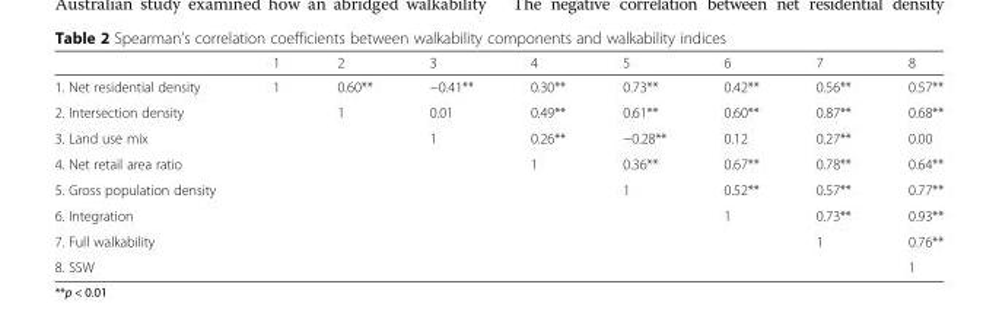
<table><thead><tr><td></td><td>1</td><td>2</td><td>3</td><td>4</td><td>5</td><td>6</td><td>7</td><td>8</td></tr></thead><tbody><tr><td>1. Net residential density</td><td>1</td><td>0.60**</td><td>−0.41**</td><td>0.30**</td><td>0.73**</td><td>0.42**</td><td>0.56**</td><td>0.57**</td></tr><tr><td>2. Intersection density</td><td></td><td>1</td><td>0.01</td><td>0.49**</td><td>0.61**</td><td>0.60**</td><td>0.87**</td><td>0.68**</td></tr><tr><td>3. Land use mix</td><td></td><td></td><td>1</td><td>0.26**</td><td>−0.28**</td><td>0.12</td><td>0.27**</td><td>0.00</td></tr><tr><td>4. Net retail area ratio</td><td></td><td></td><td></td><td>1</td><td>0.36**</td><td>0.67**</td><td>0.78**</td><td>0.64**</td></tr><tr><td>5. Gross population density</td><td></td><td></td><td></td><td></td><td>1</td><td>0.52**</td><td>0.57**</td><td>0.77**</td></tr><tr><td>6. Integration</td><td></td><td></td><td></td><td></td><td></td><td>1</td><td>0.73**</td><td>0.93**</td></tr><tr><td>7. Full walkability</td><td></td><td></td><td></td><td></td><td></td><td></td><td>1</td><td>0.76**</td></tr><tr><td>8. SSW</td><td></td><td></td><td></td><td></td><td></td><td></td><td></td><td>1</td></tr></tbody></table>